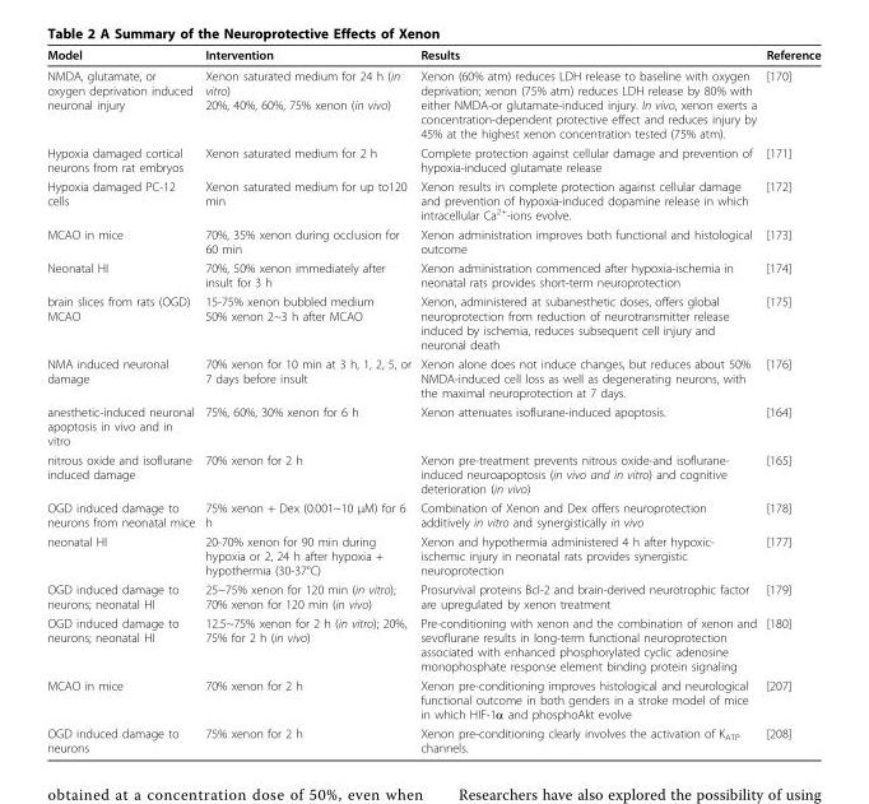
<table><thead><tr><td>Model</td><td>Intervention</td><td>Results</td><td>Reference</td></tr></thead><tbody><tr><td>NMDA, glutamate, or oxygen deprivation induced neuronal injury</td><td>Xenon saturated medium for 24 h (in vitro) 20%, 40%, 60%, 75% xenon (in vivo)</td><td>Xenon (60% atm) reduces LDH release to baseline with oxygen deprivation; xenon (75% atm) reduces LDH release by 80% with either NMDA-or glutamate-induced injury. In vivo, xenon exerts a concentration-dependent protective effect and reduces injury by 45% at the highest xenon concentration tested (75% atm).</td><td>[170]</td></tr><tr><td>Hypoxia damaged cortical neurons from rat embryos</td><td>Xenon saturated medium for 2 h</td><td>Complete protection against cellular damage and prevention of hypoxia-induced glutamate release</td><td>[171]</td></tr><tr><td>Hypoxia damaged PC-12 cells</td><td>Xenon saturated medium for up to120 min</td><td>Xenon results in complete protection against cellular damage and prevention of hypoxia-induced dopamine release in which intracellular Ca<sup>2+</sup>-ions evolve.</td><td>[172]</td></tr><tr><td>MCAO in mice</td><td>70%, 35% xenon during occlusion for 60 min</td><td>Xenon administration improves both functional and histological outcome</td><td>[173]</td></tr><tr><td>Neonatal HI</td><td>70%, 50% xenon immediately after insult for 3 h</td><td>Xenon administration commenced after hypoxia-ischemia in neonatal rats provides short-term neuroprotection</td><td>[174]</td></tr><tr><td>brain slices from rats (OGD) MCAO</td><td>15-75% xenon bubbled medium 50% xenon 2~3 h after MCAO</td><td>Xenon, administered at subanesthetic doses, offers global neuroprotection from reduction of neurotransmitter release induced by ischemia, reduces subsequent cell injury and neuronal death</td><td>[175]</td></tr><tr><td>NMA induced neuronal damage</td><td>70% xenon for 10 min at 3 h, 1, 2, 5, or 7 days before insult</td><td>Xenon alone does not induce changes, but reduces about 50% NMDA-induced cell loss as well as degenerating neurons, with the maximal neuroprotection at 7 days.</td><td>[176]</td></tr><tr><td>anesthetic-induced neuronal apoptosis in vivo and in vitro</td><td>75%, 60%, 30% xenon for 6 h</td><td>Xenon attenuates isoflurane-induced apoptosis.</td><td>[164]</td></tr><tr><td>nitrous oxide and isoflurane induced damage</td><td>70% xenon for 2 h</td><td>Xenon pre-treatment prevents nitrous oxide-and isoflurane- induced neuroapoptosis (in vivo and in vitro) and cognitive deterioration (in vivo)</td><td>[165]</td></tr><tr><td>OGD induced damage to neurons from neonatal mice</td><td>75% xenon + Dex (0.001~10 μM) for 6 h</td><td>Combination of Xenon and Dex offers neuroprotection additively in vitro and synergistically in vivo</td><td>[178]</td></tr><tr><td>neonatal HI</td><td>20-70% xenon for 90 min during hypoxia or 2, 24 h after hypoxia + hypothermia (30-37°C)</td><td>Xenon and hypothermia administered 4 h after hypoxic- ischemic injury in neonatal rats provides synergistic neuroprotection</td><td>[177]</td></tr><tr><td>OGD induced damage to neurons; neonatal HI</td><td>25~75% xenon for 120 min (in vitro); 70% xenon for 120 min (in vivo)</td><td>Prosurvival proteins Bcl-2 and brain-derived neurotrophic factor are upregulated by xenon treatment</td><td>[179]</td></tr><tr><td>OGD induced damage to neurons; neonatal HI</td><td>12.5~75% xenon for 2 h (in vitro); 20%, 75% for 2 h (in vivo)</td><td>Pre-conditioning with xenon and the combination of xenon and sevoflurane results in long-term functional neuroprotection associated with enhanced phosphorylated cyclic adenosine monophosphate response element binding protein signaling</td><td>[180]</td></tr><tr><td>MCAO in mice</td><td>70% xenon for 2 h</td><td>Xenon pre-conditioning improves histological and neurological functional outcome in both genders in a stroke model of mice in which HIF-1α and phosphoAkt evolve</td><td>[207]</td></tr><tr><td>OGD induced damage to neurons</td><td>75% xenon for 2 h</td><td>Xenon pre-conditioning clearly involves the activation of K<sub>ATP</sub> channels.</td><td>[208]</td></tr></tbody></table>